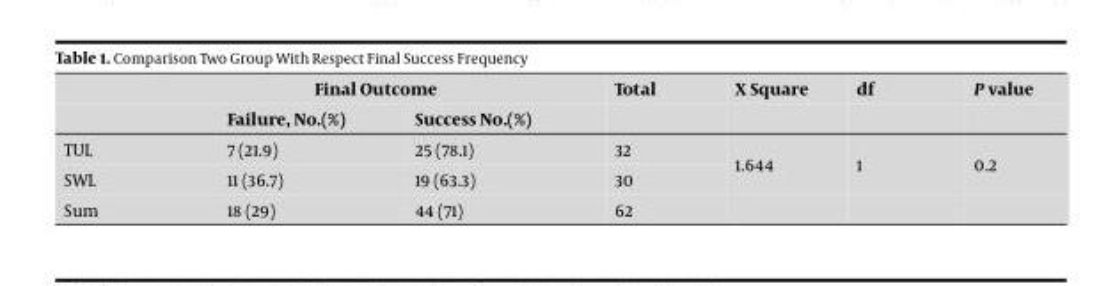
<table><thead><tr><td rowspan="2"></td><td colspan="2">Final Outcome</td><td rowspan="2">Total</td><td rowspan="2">X Square</td><td rowspan="2">df</td><td rowspan="2">P value</td></tr><tr><td>Failure, No.(%)</td><td>Success No.(%)</td></tr></thead><tbody><tr><td>TUL</td><td>7 (21.9)</td><td>25 (78.1)</td><td>32</td><td rowspan="2">1.644</td><td rowspan="2">1</td><td rowspan="2">0.2</td></tr><tr><td>SWL</td><td>11 (36.7)</td><td>19 (63.3)</td><td>30</td></tr><tr><td>Sum</td><td>18 (29)</td><td>44 (71)</td><td>62</td><td></td><td></td><td></td></tr></tbody></table>